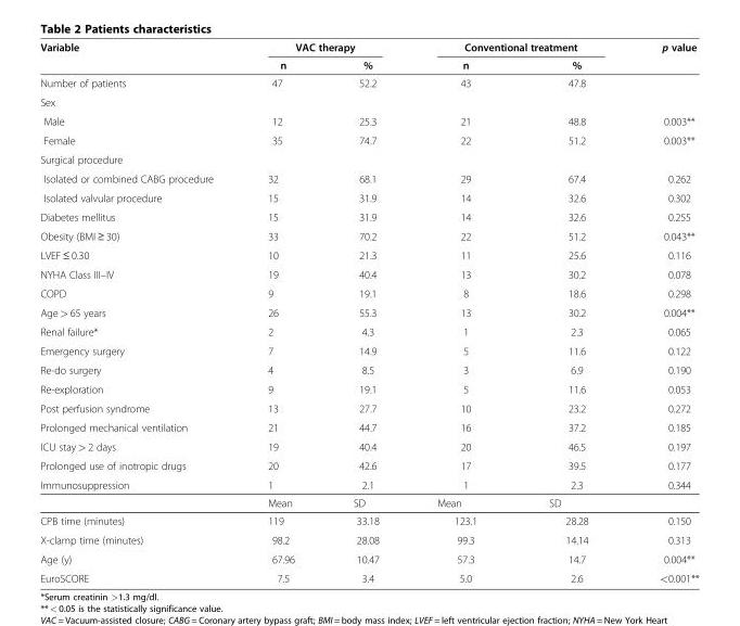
<table><thead><tr><td rowspan="2">Variable</td><td colspan="2">VAC therapy</td><td colspan="2">Conventional treatment</td><td rowspan="2">p value</td></tr><tr><td>n</td><td>%</td><td>n</td><td>%</td></tr></thead><tbody><tr><td>Number of patients</td><td>47</td><td>52.2</td><td>43</td><td>47.8</td><td></td></tr><tr><td colspan="6">Sex</td></tr><tr><td>Male</td><td>12</td><td>25.3</td><td>21</td><td>48.8</td><td>0.003**</td></tr><tr><td>Female</td><td>35</td><td>74.7</td><td>22</td><td>51.2</td><td>0.003**</td></tr><tr><td colspan="6">Surgical procedure</td></tr><tr><td>Isolated or combined CABG procedure</td><td>32</td><td>68.1</td><td>29</td><td>67.4</td><td>0.262</td></tr><tr><td>Isolated valvular procedure</td><td>15</td><td>31.9</td><td>14</td><td>32.6</td><td>0.302</td></tr><tr><td>Diabetes mellitus</td><td>15</td><td>31.9</td><td>14</td><td>32.6</td><td>0.255</td></tr><tr><td>Obesity (BMI ≥ 30)</td><td>33</td><td>70.2</td><td>22</td><td>51.2</td><td>0.043**</td></tr><tr><td>LVEF ≤ 0.30</td><td>10</td><td>21.3</td><td>11</td><td>25.6</td><td>0.116</td></tr><tr><td>NYHA Class III–IV</td><td>19</td><td>40.4</td><td>13</td><td>30.2</td><td>0.078</td></tr><tr><td>COPD</td><td>9</td><td>19.1</td><td>8</td><td>18.6</td><td>0.298</td></tr><tr><td>Age &gt; 65 years</td><td>26</td><td>55.3</td><td>13</td><td>30.2</td><td>0.004**</td></tr><tr><td>Renal failure*</td><td>2</td><td>4.3</td><td>1</td><td>2.3</td><td>0.065</td></tr><tr><td>Emergency surgery</td><td>7</td><td>14.9</td><td>5</td><td>11.6</td><td>0.122</td></tr><tr><td>Re-do surgery</td><td>4</td><td>8.5</td><td>3</td><td>6.9</td><td>0.190</td></tr><tr><td>Re-exploration</td><td>9</td><td>19.1</td><td>5</td><td>11.6</td><td>0.053</td></tr><tr><td>Post perfusion syndrome</td><td>13</td><td>27.7</td><td>10</td><td>23.2</td><td>0.272</td></tr><tr><td>Prolonged mechanical ventilation</td><td>21</td><td>44.7</td><td>16</td><td>37.2</td><td>0.185</td></tr><tr><td>ICU stay &gt; 2 days</td><td>19</td><td>40.4</td><td>20</td><td>46.5</td><td>0.197</td></tr><tr><td>Prolonged use of inotropic drugs</td><td>20</td><td>42.6</td><td>17</td><td>39.5</td><td>0.177</td></tr><tr><td rowspan="2">Immunosuppression</td><td>1</td><td>2.1</td><td>1</td><td>2.3</td><td>0.344</td></tr><tr><td>Mean</td><td>SD</td><td>Mean</td><td>SD</td><td></td></tr><tr><td>CPB time (minutes)</td><td>119</td><td>33.18</td><td>123.1</td><td>28.28</td><td>0.150</td></tr><tr><td>X-clamp time (minutes)</td><td>98.2</td><td>28.08</td><td>99.3</td><td>14.14</td><td>0.313</td></tr><tr><td>Age (y)</td><td>67.96</td><td>10.47</td><td>57.3</td><td>14.7</td><td>0.004**</td></tr><tr><td>EuroSCORE</td><td>7.5</td><td>3.4</td><td>5.0</td><td>2.6</td><td>&lt;0.001**</td></tr></tbody></table>